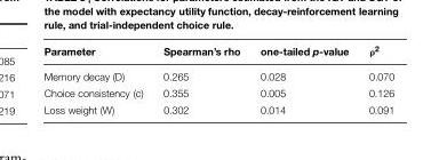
<table><thead><tr><td>Parameter</td><td>Spearman’s rho</td><td>one-tailed p-value</td><td>ρ<sup>2</sup></td></tr></thead><tbody><tr><td>Memory decay (D)</td><td>0.265</td><td>0.028</td><td>0.070</td></tr><tr><td>Choice consistency (c)</td><td>0.355</td><td>0.005</td><td>0.126</td></tr><tr><td>Loss weight (W)</td><td>0.302</td><td>0.014</td><td>0.091</td></tr></tbody></table>